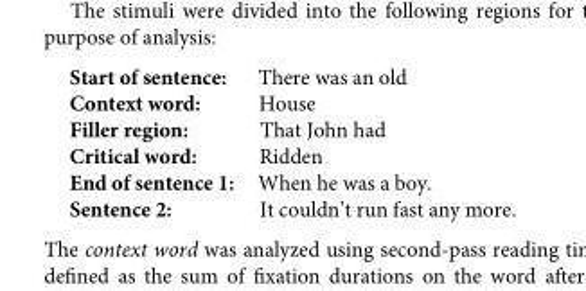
<table><tbody><tr><td>Start of sentence:</td><td>There was an old</td></tr><tr><td>Context word:</td><td>House</td></tr><tr><td>Filler region:</td><td>That John had</td></tr><tr><td>Critical word:</td><td>Ridden</td></tr><tr><td>End of sentence 1:</td><td>When he was a boy.</td></tr><tr><td>Sentence 2:</td><td>It couldn’t run fast any more.</td></tr></tbody></table>